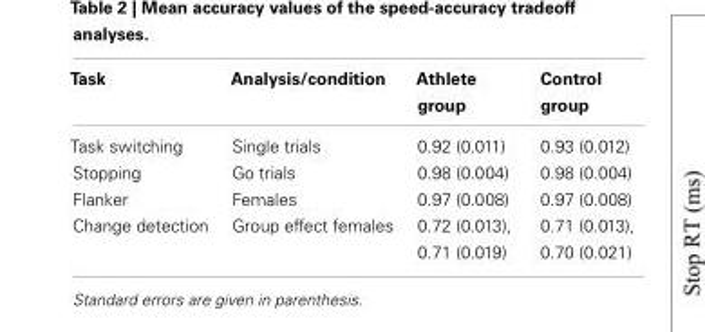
<table><thead><tr><td>Task</td><td>Analysis/condition</td><td>Athlete group</td><td>Control group</td></tr></thead><tbody><tr><td>Task switching</td><td>Single trials</td><td>0.92 (0.011)</td><td>0.93 (0.012)</td></tr><tr><td>Stopping</td><td>Go trials</td><td>0.98 (0.004)</td><td>0.98 (0.004)</td></tr><tr><td>Flanker</td><td>Females</td><td>0.97 (0.008)</td><td>0.97 (0.008)</td></tr><tr><td>Change detection</td><td>Group effect females</td><td>0.72 (0.013), 0.71 (0.019)</td><td>0.71 (0.013), 0.70 (0.021)</td></tr></tbody></table>